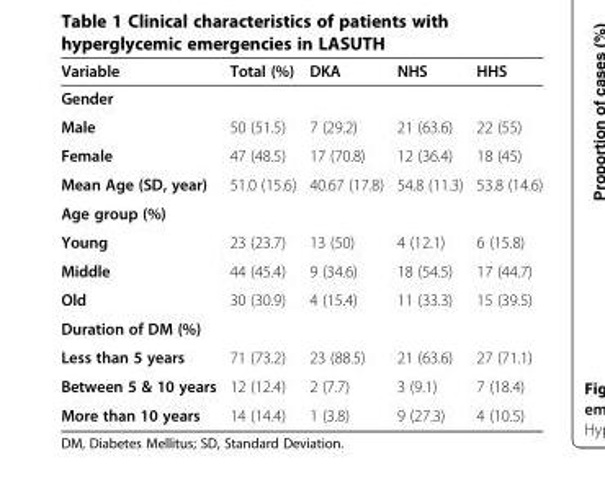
<table><thead><tr><td>Variable</td><td>Total (%)</td><td>DKA</td><td>NHS</td><td>HHS</td></tr></thead><tbody><tr><td colspan="5">Gender</td></tr><tr><td>Male</td><td>50 (51.5)</td><td>7 (29.2)</td><td>21 (63.6)</td><td>22 (55)</td></tr><tr><td>Female</td><td>47 (48.5)</td><td>17 (70.8)</td><td>12 (36.4)</td><td>18 (45)</td></tr><tr><td>Mean Age (SD, year)</td><td>51.0 (15.6)</td><td>40.67 (17.8)</td><td>54.8 (11.3)</td><td>53.8 (14.6)</td></tr><tr><td colspan="5">Age group (%)</td></tr><tr><td>Young</td><td>23 (23.7)</td><td>13 (50)</td><td>4 (12.1)</td><td>6 (15.8)</td></tr><tr><td>Middle</td><td>44 (45.4)</td><td>9 (34.6)</td><td>18 (54.5)</td><td>17 (44.7)</td></tr><tr><td>Old</td><td>30 (30.9)</td><td>4 (15.4)</td><td>11 (33.3)</td><td>15 (39.5)</td></tr><tr><td colspan="5">Duration of DM (%)</td></tr><tr><td>Less than 5 years</td><td>71 (73.2)</td><td>23 (88.5)</td><td>21 (63.6)</td><td>27 (71.1)</td></tr><tr><td>Between 5 &amp; 10 years</td><td>12 (12.4)</td><td>2 (7.7)</td><td>3 (9.1)</td><td>7 (18.4)</td></tr><tr><td>More than 10 years</td><td>14 (14.4)</td><td>1 (3.8)</td><td>9 (27.3)</td><td>4 (10.5)</td></tr></tbody></table>